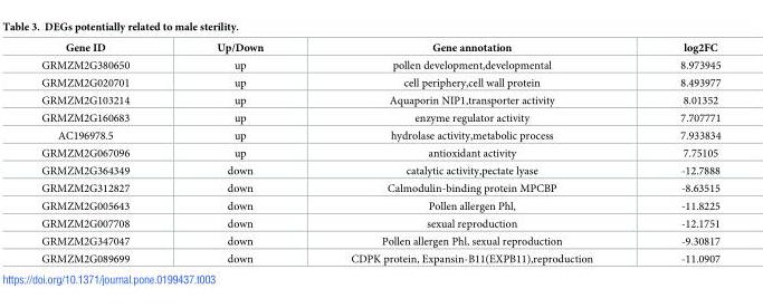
<table><thead><tr><td>Gene ID</td><td>Up/Down</td><td>Gene annotation</td><td>log2FC</td></tr></thead><tbody><tr><td>GRMZM2G380650</td><td>up</td><td>pollen development,developmental</td><td>8.973945</td></tr><tr><td>GRMZM2G020701</td><td>up</td><td>cell periphery,cell wall protein</td><td>8.493977</td></tr><tr><td>GRMZM2G103214</td><td>up</td><td>Aquaporin NIP1,transporter activity</td><td>8.01352</td></tr><tr><td>GRMZM2G160683</td><td>up</td><td>enzyme regulator activity</td><td>7.707771</td></tr><tr><td>AC196978.5</td><td>up</td><td>hydrolase activity,metabolic process</td><td>7.933834</td></tr><tr><td>GRMZM2G067096</td><td>up</td><td>antioxidant activity</td><td>7.75105</td></tr><tr><td>GRMZM2G364349</td><td>down</td><td>catalytic activity,pectate lyase</td><td>-12.7888</td></tr><tr><td>GRMZM2G312827</td><td>down</td><td>Calmodulin-binding protein MPCBP</td><td>-8.63515</td></tr><tr><td>GRMZM2G005643</td><td>down</td><td>Pollen allergen Phl,</td><td>-11.8225</td></tr><tr><td>GRMZM2G007708</td><td>down</td><td>sexual reproduction</td><td>-12.1751</td></tr><tr><td>GRMZM2G347047</td><td>down</td><td>Pollen allergen Phl, sexual reproduction</td><td>-9.30817</td></tr><tr><td>GRMZM2G089699</td><td>down</td><td>CDPK protein, Expansin-B11(EXPB11),reproduction</td><td>-11.0907</td></tr></tbody></table>